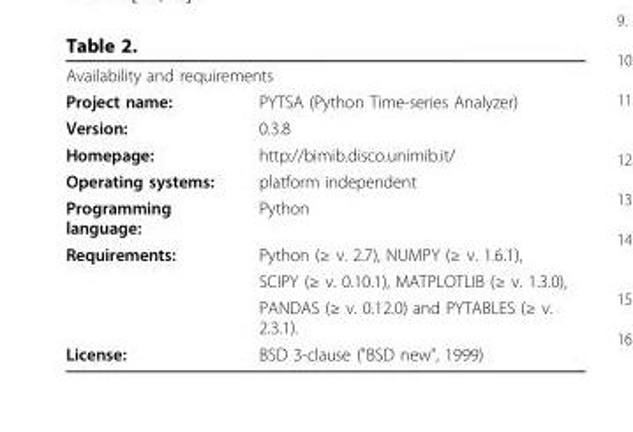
<table><tbody><tr><td colspan="2">Availability and requirements</td></tr><tr><td>Project name:</td><td>PYTSA (Python Time-series Analyzer)</td></tr><tr><td>Version:</td><td>0.3.8</td></tr><tr><td>Homepage:</td><td>http://bimib.disco.unimib.it/</td></tr><tr><td>Operating systems:</td><td>platform independent</td></tr><tr><td>Programming language:</td><td>Python</td></tr><tr><td rowspan="3">Requirements:</td><td>Python (≥ v. 2.7), NUMPY (≥ v. 1.6.1),</td></tr><tr><td>SCIPY (≥ v. 0.10.1), MATPLOTLIB (≥ v. 1.3.0),</td></tr><tr><td>PANDAS (≥ v. 0.12.0) and PYTABLES (≥ v. 2.3.1).</td></tr><tr><td>License:</td><td>BSD 3-clause (&quot;BSD new”, 1999)</td></tr></tbody></table>